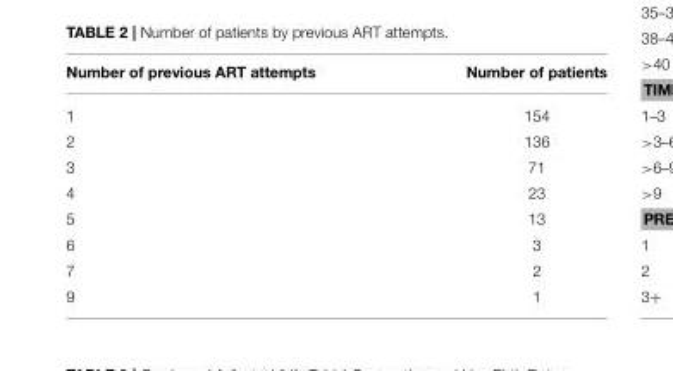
<table><thead><tr><td>Number of previous ART attempts</td><td>Number of patients</td></tr></thead><tbody><tr><td>1</td><td>154</td></tr><tr><td>2</td><td>136</td></tr><tr><td>3</td><td>71</td></tr><tr><td>4</td><td>23</td></tr><tr><td>5</td><td>13</td></tr><tr><td>6</td><td>3</td></tr><tr><td>7</td><td>2</td></tr><tr><td>9</td><td>1</td></tr></tbody></table>